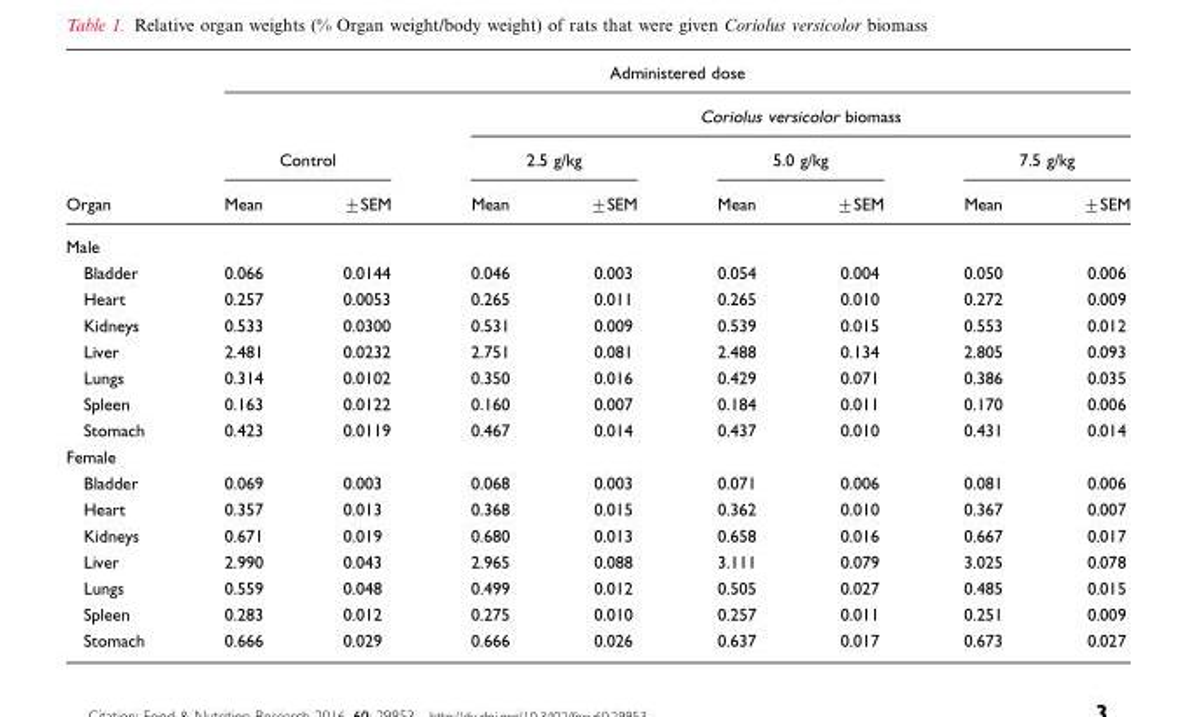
<table><thead><tr><td rowspan="4">Organ</td><td colspan="8">Administered dose</td></tr><tr><td></td><td></td><td colspan="6">Coriolus versicolor biomass</td></tr><tr><td colspan="2">Control</td><td colspan="2">2.5 g/kg</td><td colspan="2">5.0 g/kg</td><td colspan="2">7.5 g/kg</td></tr><tr><td>Mean</td><td>±SEM</td><td>Mean</td><td>±SEM</td><td>Mean</td><td>±SEM</td><td>Mean</td><td>±SEM</td></tr></thead><tbody><tr><td colspan="9">Male</td></tr><tr><td>Bladder</td><td>0.066</td><td>0.0144</td><td>0.046</td><td>0.003</td><td>0.054</td><td>0.004</td><td>0.050</td><td>0.006</td></tr><tr><td>Heart</td><td>0.257</td><td>0.0053</td><td>0.265</td><td>0.011</td><td>0.265</td><td>0.010</td><td>0.272</td><td>0.009</td></tr><tr><td>Kidneys</td><td>0.533</td><td>0.0300</td><td>0.531</td><td>0.009</td><td>0.539</td><td>0.015</td><td>0.553</td><td>0.012</td></tr><tr><td>Liver</td><td>2.481</td><td>0.0232</td><td>2.751</td><td>0.081</td><td>2.488</td><td>0.134</td><td>2.805</td><td>0.093</td></tr><tr><td>Lungs</td><td>0.314</td><td>0.0102</td><td>0.350</td><td>0.016</td><td>0.429</td><td>0.071</td><td>0.386</td><td>0.035</td></tr><tr><td>Spleen</td><td>0.163</td><td>0.0122</td><td>0.160</td><td>0.007</td><td>0.184</td><td>0.011</td><td>0.170</td><td>0.006</td></tr><tr><td>Stomach</td><td>0.423</td><td>0.0119</td><td>0.467</td><td>0.014</td><td>0.437</td><td>0.010</td><td>0.431</td><td>0.014</td></tr><tr><td colspan="9">Female</td></tr><tr><td>Bladder</td><td>0.069</td><td>0.003</td><td>0.068</td><td>0.003</td><td>0.071</td><td>0.006</td><td>0.081</td><td>0.006</td></tr><tr><td>Heart</td><td>0.357</td><td>0.013</td><td>0.368</td><td>0.015</td><td>0.362</td><td>0.010</td><td>0.367</td><td>0.007</td></tr><tr><td>Kidneys</td><td>0.671</td><td>0.019</td><td>0.680</td><td>0.013</td><td>0.658</td><td>0.016</td><td>0.667</td><td>0.017</td></tr><tr><td>Liver</td><td>2.990</td><td>0.043</td><td>2.965</td><td>0.088</td><td>3.111</td><td>0.079</td><td>3.025</td><td>0.078</td></tr><tr><td>Lungs</td><td>0.559</td><td>0.048</td><td>0.499</td><td>0.012</td><td>0.505</td><td>0.027</td><td>0.485</td><td>0.015</td></tr><tr><td>Spleen</td><td>0.283</td><td>0.012</td><td>0.275</td><td>0.010</td><td>0.257</td><td>0.011</td><td>0.251</td><td>0.009</td></tr><tr><td>Stomach</td><td>0.666</td><td>0.029</td><td>0.666</td><td>0.026</td><td>0.637</td><td>0.017</td><td>0.673</td><td>0.027</td></tr></tbody></table>